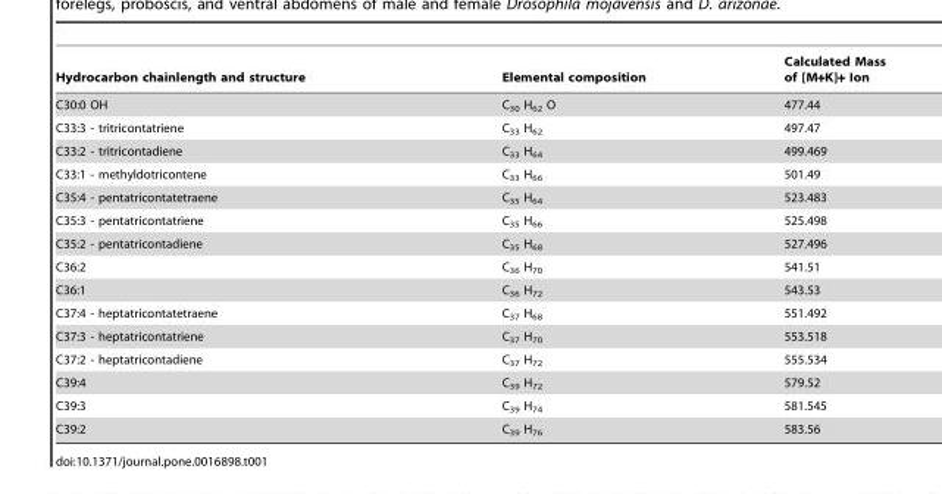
<table><thead><tr><td>Hydrocarbon chainlength and structure</td><td>Elemental composition</td><td>Calculated Mass of [M+K]+ Ion</td></tr></thead><tbody><tr><td>C30:0 OH</td><td>C<sub>30</sub> H<sub>62</sub> O</td><td>477.44</td></tr><tr><td>C33:3 - tritricontatriene</td><td>C<sub>33</sub> H<sub>62</sub></td><td>497.47</td></tr><tr><td>C33:2 - tritricontadiene</td><td>C<sub>33</sub> H<sub>64</sub></td><td>499.469</td></tr><tr><td>C33:1 - methyldotricontene</td><td>C<sub>33</sub> H<sub>66</sub></td><td>501.49</td></tr><tr><td>C35:4 - pentatricontatetraene</td><td>C<sub>35</sub> H<sub>64</sub></td><td>523.483</td></tr><tr><td>C35:3 - pentatricontatriene</td><td>C<sub>35</sub> H<sub>66</sub></td><td>525.498</td></tr><tr><td>C35:2 - pentatricontadiene</td><td>C<sub>35</sub> H<sub>68</sub></td><td>527.496</td></tr><tr><td>C36:2</td><td>C<sub>36</sub> H<sub>70</sub></td><td>541.51</td></tr><tr><td>C36:1</td><td>C<sub>36</sub> H<sub>72</sub></td><td>543.53</td></tr><tr><td>C37:4 - heptatricontatetraene</td><td>C<sub>37</sub> H<sub>68</sub></td><td>551.492</td></tr><tr><td>C37:3 - heptatricontatriene</td><td>C<sub>37</sub> H<sub>70</sub></td><td>553.518</td></tr><tr><td>C37:2 - heptatricontadiene</td><td>C<sub>37</sub> H<sub>72</sub></td><td>555.534</td></tr><tr><td>C39:4</td><td>C<sub>39</sub> H<sub>72</sub></td><td>579.52</td></tr><tr><td>C39:3</td><td>C<sub>39</sub> H<sub>74</sub></td><td>581.545</td></tr><tr><td>C39:2</td><td>C<sub>39</sub> H<sub>76</sub></td><td>583.56</td></tr></tbody></table>